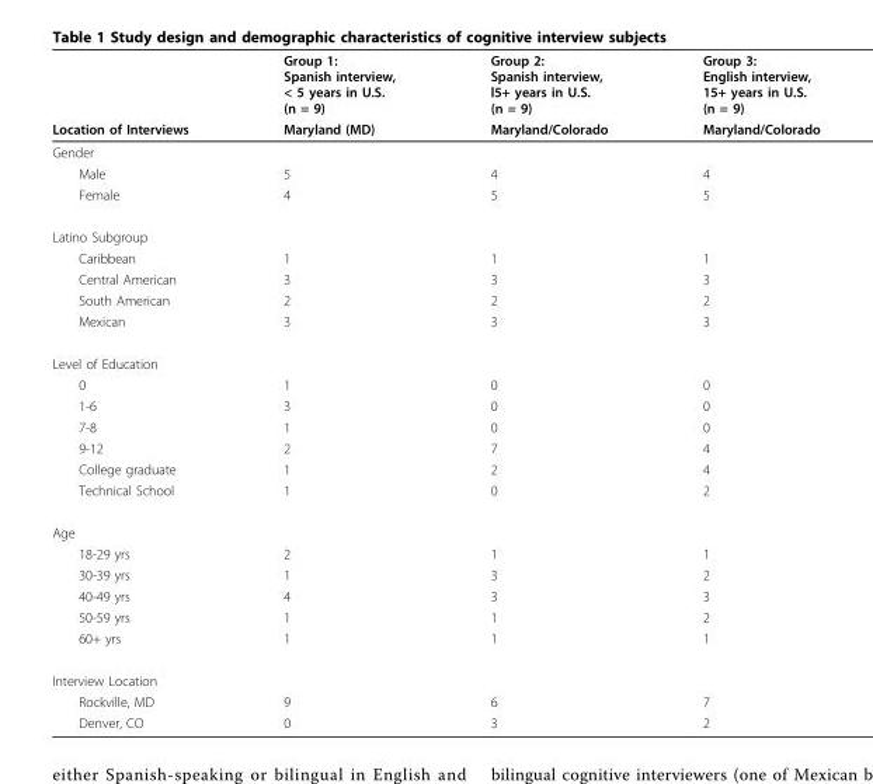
<table><thead><tr><td rowspan="2">Location of Interviews</td><td rowspan="2">Group 1: Spanish interview, &lt; 5 years in U.S. (n = 9) Maryland (MD)</td><td rowspan="2">Group 2: Spanish interview, l5+ years in U.S. (n = 9) Maryland/Colorado</td><td rowspan="2">Group 3: English interview, 15+ years in U.S. (n = 9) Maryland/Colorado</td></tr><tr></tr></thead><tbody><tr><td colspan="4">Gender</td></tr><tr><td>Male</td><td>5</td><td>4</td><td>4</td></tr><tr><td>Female</td><td>4</td><td>5</td><td>5</td></tr><tr><td colspan="4">Latino Subgroup</td></tr><tr><td>Caribbean</td><td>1</td><td>1</td><td>1</td></tr><tr><td>Central American</td><td>3</td><td>3</td><td>3</td></tr><tr><td>South American</td><td>2</td><td>2</td><td>2</td></tr><tr><td>Mexican</td><td>3</td><td>3</td><td>3</td></tr><tr><td colspan="4">Level of Education</td></tr><tr><td>0</td><td>1</td><td>0</td><td>0</td></tr><tr><td>1-6</td><td>3</td><td>0</td><td>0</td></tr><tr><td>7-8</td><td>1</td><td>0</td><td>0</td></tr><tr><td>9-12</td><td>2</td><td>7</td><td>4</td></tr><tr><td>College graduate</td><td>1</td><td>2</td><td>4</td></tr><tr><td>Technical School</td><td>1</td><td>0</td><td>2</td></tr><tr><td colspan="4">Age</td></tr><tr><td>18-29 yrs</td><td>2</td><td>1</td><td>1</td></tr><tr><td>30-39 yrs</td><td>1</td><td>3</td><td>2</td></tr><tr><td>40-49 yrs</td><td>4</td><td>3</td><td>3</td></tr><tr><td>50-59 yrs</td><td>1</td><td>1</td><td>2</td></tr><tr><td>60+ yrs</td><td>1</td><td>1</td><td>1</td></tr><tr><td colspan="4">Interview Location</td></tr><tr><td>Rockville, MD</td><td>9</td><td>6</td><td>7</td></tr><tr><td>Denver, CO</td><td>0</td><td>3</td><td>2</td></tr></tbody></table>